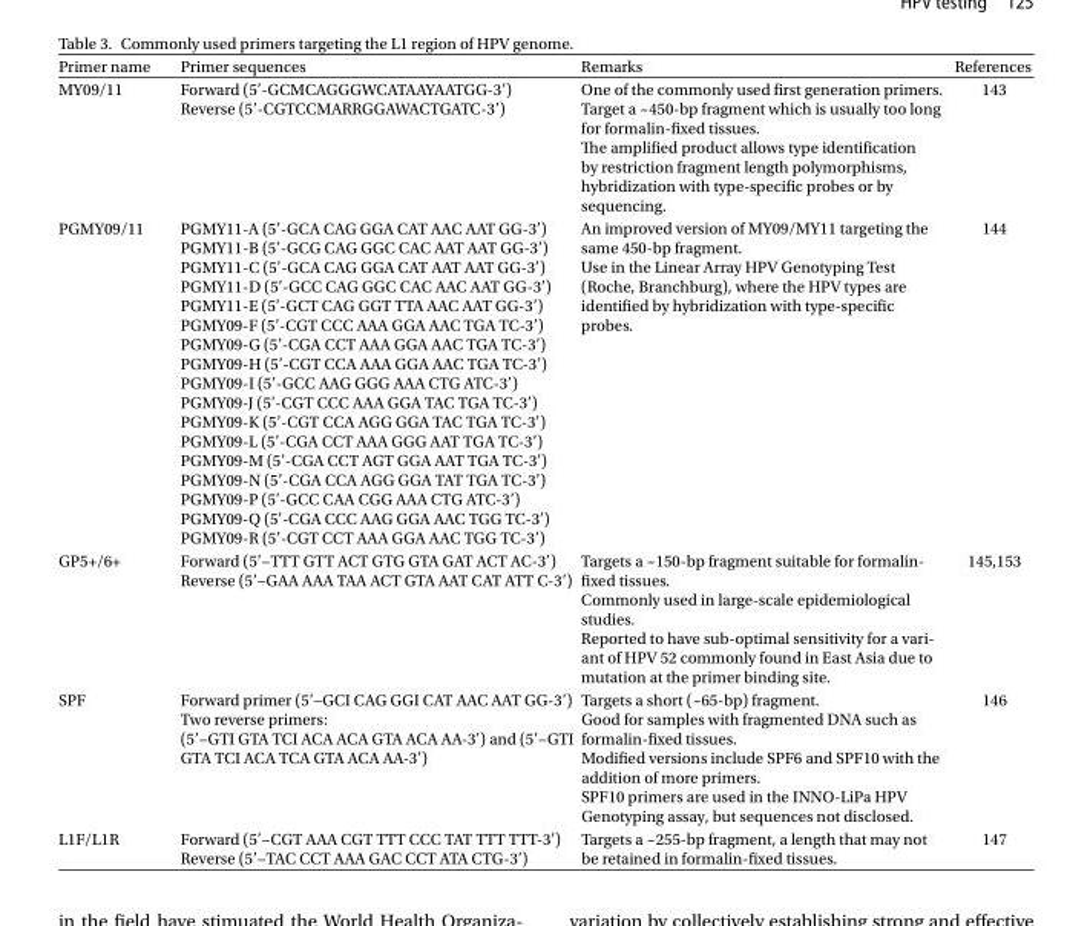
<table><thead><tr><td>Primer name</td><td>Primer sequences</td><td>Remarks</td><td>References</td></tr></thead><tbody><tr><td>MY09/11</td><td>Forward (5’-GCMCAGGGWCATAAYAATGG-3’) Reverse (5’-CGTCCMARRGGAWACTGATC-3’)</td><td>One of the commonly used first generation primers. Target a ~450-bp fragment which is usually too long for formalin-fixed tissues. The amplified product allows type identification by restriction fragment length polymorphisms, hybridization with type-specific probes or by sequencing.</td><td>143</td></tr><tr><td>PGMY09/11</td><td>PGMY11-A (5’-GCA CAG GGA CAT AAC AAT GG-3’) PGMY11-B (5’-GCG CAG GGC CAC AAT AAT GG-3’) PGMY11-C (5’-GCA CAG GGA CAT AAT AAT GG-3’) PGMY11-D (5’-GCC CAG GGC CAC AAC AAT GG-3’) PGMY11-E (5’-GCT CAG GGT TTA AAC AAT GG-3’) PGMY09-F (5’-CGT CCC AAA GGA AAC TGA TC-3’) PGMY09-G (5’-CGA CCT AAA GGA AAC TGA TC-3’) PGMY09-H (5’-CGT CCA AAA GGA AAC TGA TC-3’) PGMY09-I (5’-GCC AAG GGG AAA CTG ATC-3’) PGMY09-J (5’-CGT CCC AAA GGA TAC TGA TC-3’) PGMY09-K (5’-CGT CCA AGG GGA TAC TGA TC-3’) PGMY09-L (5’-CGA CCT AAA GGG AAT TGA TC-3’) PGMY09-M (5’-CGA CCT AGT GGA AAT TGA TC-3’) PGMY09-N (5’-CGA CCA AGG GGA TAT TGA TC-3’) PGMY09-P (5’-GCC CAA CGG AAA CTG ATC-3’) PGMY09-Q (5’-CGA CCC AAG GGA AAC TGG TC-3’) PGMY09-R (5’-CGT CCT AAA GGA AAC TGG TC-3’)</td><td>An improved version of MY09/MY11 targeting the same 450-bp fragment. Use in the Linear Array HPV Genotyping Test (Roche, Branchburg), where the HPV types are identified by hybridization with type-specific probes.</td><td>144</td></tr><tr><td>GP5+/6+</td><td>Forward (5’−TTT GTT ACT GTG GTA GAT ACT AC-3’) Reverse (5’−GAA AAA TAA ACT GTA AAT CAT ATT C-3’)</td><td>Targets a ~150-bp fragment suitable for formalin- fixed tissues. Commonly used in large-scale epidemiological studies. Reported to have sub-optimal sensitivity for a vari- ant of HPV 52 commonly found in East Asia due to mutation at the primer binding site.</td><td>145,153</td></tr><tr><td>SPF</td><td>Forward primer (5’−GCI CAG GGI CAT AAC AAT GG-3’) Two reverse primers: (5’−GTI GTA TCI ACA ACA GTA ACA AA-3’) and (5’−GTI GTA TCI ACA TCA GTA ACA AA-3’)</td><td>Targets a short (~65-bp) fragment. Good for samples with fragmented DNA such as formalin-fixed tissues. Modified versions include SPF6 and SPF10 with the addition of more primers. SPF10 primers are used in the INNO-LiPa HPV Genotyping assay, but sequences not disclosed.</td><td>146</td></tr><tr><td>L1F/L1R</td><td>Forward (5’−CGT AAA CGT TTT CCC TAT TTT TTT-3’) Reverse (5’−TAC CCT AAA GAC CCT ATA CTG-3’)</td><td>Targets a ~255-bp fragment, a length that may not be retained in formalin-fixed tissues.</td><td>147</td></tr></tbody></table>